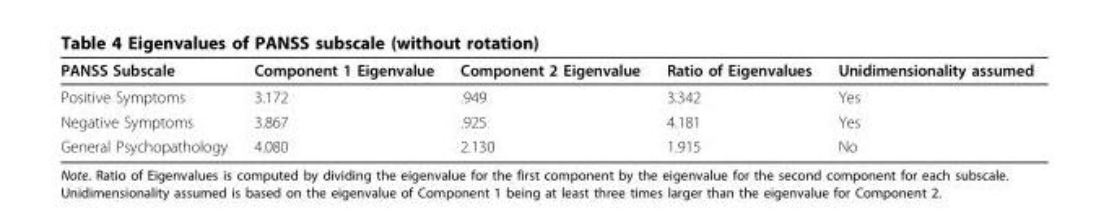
<table><thead><tr><td>PANSS Subscale</td><td>Component 1 Eigenvalue</td><td>Component 2 Eigenvalue</td><td>Ratio of Eigenvalues</td><td>Unidimensionality assumed</td></tr></thead><tbody><tr><td>Positive Symptoms</td><td>3.172</td><td>.949</td><td>3.342</td><td>Yes</td></tr><tr><td>Negative Symptoms</td><td>3.867</td><td>.925</td><td>4.181</td><td>Yes</td></tr><tr><td>General Psychopathology</td><td>4.080</td><td>2.130</td><td>1.915</td><td>No</td></tr></tbody></table>